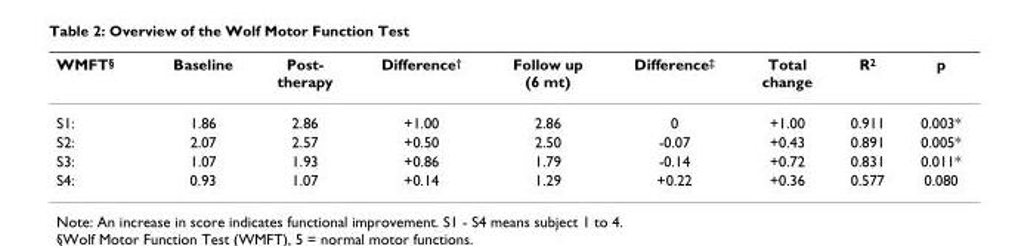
<table><thead><tr><td>WMFT<sup>§</sup></td><td>Baseline</td><td>Post- therapy</td><td>Difference<sup>†</sup></td><td>Follow up (6 mt)</td><td>Difference<sup>‡</sup></td><td>Total change</td><td>R<sup>2</sup></td><td>p</td></tr></thead><tbody><tr><td>S1:</td><td>1.86</td><td>2.86</td><td>+1.00</td><td>2.86</td><td>0</td><td>+1.00</td><td>0.911</td><td>0.003*</td></tr><tr><td>S2:</td><td>2.07</td><td>2.57</td><td>+0.50</td><td>2.50</td><td>-0.07</td><td>+0.43</td><td>0.891</td><td>0.005*</td></tr><tr><td>S3:</td><td>1.07</td><td>1.93</td><td>+0.86</td><td>1.79</td><td>-0.14</td><td>+0.72</td><td>0.831</td><td>0.011*</td></tr><tr><td>S4:</td><td>0.93</td><td>1.07</td><td>+0.14</td><td>1.29</td><td>+0.22</td><td>+0.36</td><td>0.577</td><td>0.080</td></tr></tbody></table>